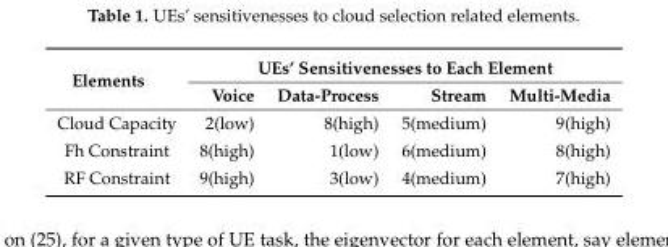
<table><thead><tr><td rowspan="2">Elements</td><td colspan="4">UEs’ Sensitivenesses to Each Element</td></tr><tr><td>Voice</td><td>Data-Process</td><td>Stream</td><td>Multi-Media</td></tr></thead><tbody><tr><td>Cloud Capacity</td><td>2(low)</td><td>8(high)</td><td>5(medium)</td><td>9(high)</td></tr><tr><td>Fh Constraint</td><td>8(high)</td><td>1(low)</td><td>6(medium)</td><td>8(high)</td></tr><tr><td>RF Constraint</td><td>9(high)</td><td>3(low)</td><td>4(medium)</td><td>7(high)</td></tr></tbody></table>